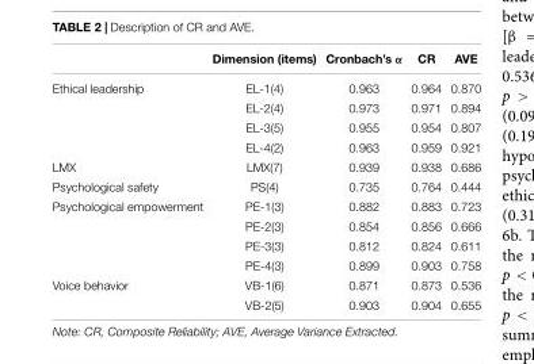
<table><thead><tr><td></td><td>Dimension (items)</td><td>Cronbach’s α</td><td>CR</td><td>AVE</td></tr></thead><tbody><tr><td rowspan="4">Ethical leadership</td><td>EL-1(4)</td><td>0.963</td><td>0.964</td><td>0.870</td></tr><tr><td>EL-2(4)</td><td>0.973</td><td>0.971</td><td>0.894</td></tr><tr><td>EL-3(5)</td><td>0.955</td><td>0.954</td><td>0.807</td></tr><tr><td>EL-4(2)</td><td>0.963</td><td>0.959</td><td>0.921</td></tr><tr><td>LMX</td><td>LMX(7)</td><td>0.939</td><td>0.938</td><td>0.686</td></tr><tr><td>Psychological safety</td><td>PS(4)</td><td>0.735</td><td>0.764</td><td>0.444</td></tr><tr><td rowspan="4">Psychological empowerment</td><td>PE-1(3)</td><td>0.882</td><td>0.883</td><td>0.723</td></tr><tr><td>PE-2(3)</td><td>0.854</td><td>0.856</td><td>0.666</td></tr><tr><td>PE-3(3)</td><td>0.812</td><td>0.824</td><td>0.611</td></tr><tr><td>PE-4(3)</td><td>0.899</td><td>0.903</td><td>0.758</td></tr><tr><td rowspan="2">Voice behavior</td><td>VB-1(6)</td><td>0.871</td><td>0.873</td><td>0.536</td></tr><tr><td>VB-2(5)</td><td>0.903</td><td>0.904</td><td>0.655</td></tr></tbody></table>